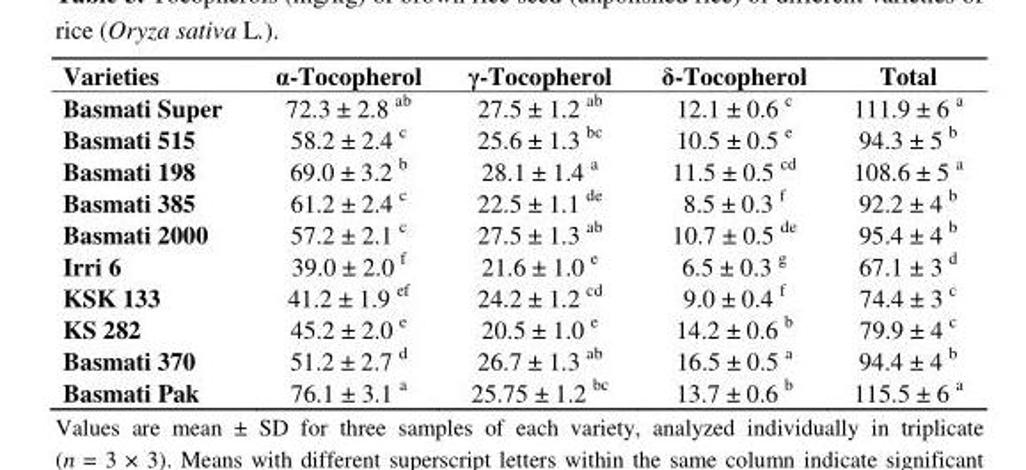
<table><thead><tr><td>Varieties</td><td>α-Tocopherol</td><td>γ-Tocopherol</td><td>δ-Tocopherol</td><td>Total</td></tr></thead><tbody><tr><td>Basmati Super</td><td>72.3 ± 2.8 <sup>ab</sup></td><td>27.5 ± 1.2 <sup>ab</sup></td><td>12.1 ± 0.6 <sup>c</sup></td><td>111.9 ± 6 <sup>a</sup></td></tr><tr><td>Basmati 515</td><td>58.2 ± 2.4 <sup>c</sup></td><td>25.6 ± 1.3 <sup>bc</sup></td><td>10.5 ± 0.5 <sup>e</sup></td><td>94.3 ± 5 <sup>b</sup></td></tr><tr><td>Basmati 198</td><td>69.0 ± 3.2 <sup>b</sup></td><td>28.1 ± 1.4 <sup>a</sup></td><td>11.5 ± 0.5 <sup>cd</sup></td><td>108.6 ± 5 <sup>a</sup></td></tr><tr><td>Basmati 385</td><td>61.2 ± 2.4 <sup>c</sup></td><td>22.5 ± 1.1 <sup>de</sup></td><td>8.5 ± 0.3 <sup>f</sup></td><td>92.2 ± 4 <sup>b</sup></td></tr><tr><td>Basmati 2000</td><td>57.2 ± 2.1 <sup>c</sup></td><td>27.5 ± 1.3 <sup>ab</sup></td><td>10.7 ± 0.5 <sup>de</sup></td><td>95.4 ± 4 <sup>b</sup></td></tr><tr><td>Irri 6</td><td>39.0 ± 2.0 <sup>f</sup></td><td>21.6 ± 1.0 <sup>e</sup></td><td>6.5 ± 0.3 <sup>g</sup></td><td>67.1 ± 3 <sup>d</sup></td></tr><tr><td>KSK 133</td><td>41.2 ± 1.9 <sup>ef</sup></td><td>24.2 ± 1.2 <sup>cd</sup></td><td>9.0 ± 0.4 <sup>f</sup></td><td>74.4 ± 3 <sup>c</sup></td></tr><tr><td>KS 282</td><td>45.2 ± 2.0 <sup>e</sup></td><td>20.5 ± 1.0 <sup>e</sup></td><td>14.2 ± 0.6 <sup>b</sup></td><td>79.9 ± 4 <sup>c</sup></td></tr><tr><td>Basmati 370</td><td>51.2 ± 2.7 <sup>d</sup></td><td>26.7 ± 1.3 <sup>ab</sup></td><td>16.5 ± 0.5 <sup>a</sup></td><td>94.4 ± 4 <sup>b</sup></td></tr><tr><td>Basmati Pak</td><td>76.1 ± 3.1 <sup>a</sup></td><td>25.75 ± 1.2 <sup>bc</sup></td><td>13.7 ± 0.6 <sup>b</sup></td><td>115.5 ± 6 <sup>a</sup></td></tr></tbody></table>